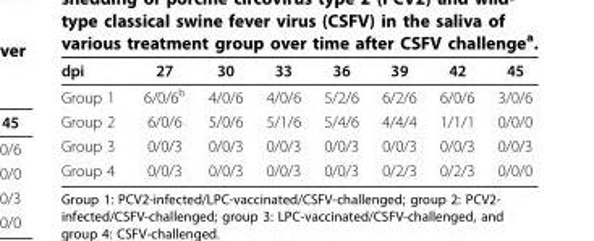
<table><thead><tr><td>dpi</td><td>27</td><td>30</td><td>33</td><td>36</td><td>39</td><td>42</td><td>45</td></tr></thead><tbody><tr><td>Group 1</td><td>6/0/6<sup>b</sup></td><td>4/0/6</td><td>4/0/6</td><td>5/2/6</td><td>6/2/6</td><td>6/0/6</td><td>3/0/6</td></tr><tr><td>Group 2</td><td>6/0/6</td><td>5/0/6</td><td>5/1/6</td><td>5/4/6</td><td>4/4/4</td><td>1/1/1</td><td>0/0/0</td></tr><tr><td>Group 3</td><td>0/0/3</td><td>0/0/3</td><td>0/0/3</td><td>0/0/3</td><td>0/0/3</td><td>0/0/3</td><td>0/0/3</td></tr><tr><td>Group 4</td><td>0/0/3</td><td>0/0/3</td><td>0/0/3</td><td>0/0/3</td><td>0/2/3</td><td>0/2/3</td><td>0/0/0</td></tr></tbody></table>